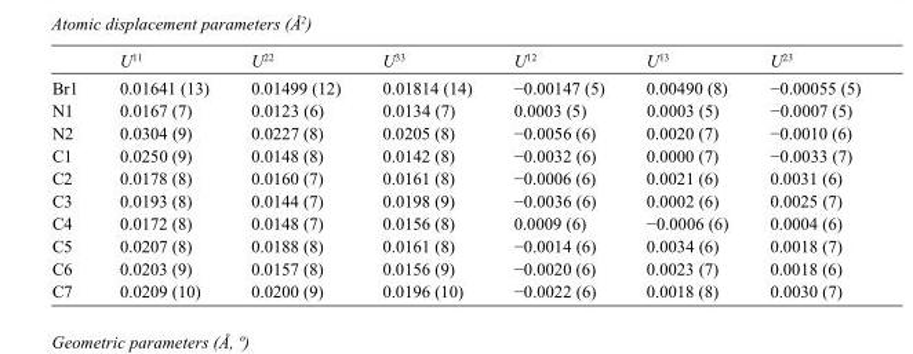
<table><thead><tr><td></td><td>U<sup>11</sup></td><td>U<sup>22</sup></td><td>U<sup>33</sup></td><td>U<sup>12</sup></td><td>U<sup>13</sup></td><td>U<sup>23</sup></td></tr></thead><tbody><tr><td>Br1</td><td>0.01641 (13)</td><td>0.01499 (12)</td><td>0.01814 (14)</td><td>−0.00147 (5)</td><td>0.00490 (8)</td><td>−0.00055 (5)</td></tr><tr><td>N1</td><td>0.0167 (7)</td><td>0.0123 (6)</td><td>0.0134 (7)</td><td>0.0003 (5)</td><td>0.0003 (5)</td><td>−0.0007 (5)</td></tr><tr><td>N2</td><td>0.0304 (9)</td><td>0.0227 (8)</td><td>0.0205 (8)</td><td>−0.0056 (6)</td><td>0.0020 (7)</td><td>−0.0010 (6)</td></tr><tr><td>C1</td><td>0.0250 (9)</td><td>0.0148 (8)</td><td>0.0142 (8)</td><td>−0.0032 (6)</td><td>0.0000 (7)</td><td>−0.0033 (7)</td></tr><tr><td>C2</td><td>0.0178 (8)</td><td>0.0160 (7)</td><td>0.0161 (8)</td><td>−0.0006 (6)</td><td>0.0021 (6)</td><td>0.0031 (6)</td></tr><tr><td>C3</td><td>0.0193 (8)</td><td>0.0144 (7)</td><td>0.0198 (9)</td><td>−0.0036 (6)</td><td>0.0002 (6)</td><td>0.0025 (7)</td></tr><tr><td>C4</td><td>0.0172 (8)</td><td>0.0148 (7)</td><td>0.0156 (8)</td><td>0.0009 (6)</td><td>−0.0006 (6)</td><td>0.0004 (6)</td></tr><tr><td>C5</td><td>0.0207 (8)</td><td>0.0188 (8)</td><td>0.0161 (8)</td><td>−0.0014 (6)</td><td>0.0034 (6)</td><td>0.0018 (7)</td></tr><tr><td>C6</td><td>0.0203 (9)</td><td>0.0157 (8)</td><td>0.0156 (9)</td><td>−0.0020 (6)</td><td>0.0023 (7)</td><td>0.0018 (6)</td></tr><tr><td>C7</td><td>0.0209 (10)</td><td>0.0200 (9)</td><td>0.0196 (10)</td><td>−0.0022 (6)</td><td>0.0018 (8)</td><td>0.0030 (7)</td></tr></tbody></table>